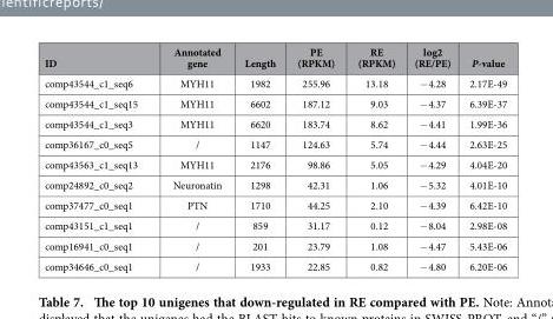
<table><thead><tr><td>ID</td><td>Annotated gene</td><td>Length</td><td>PE (RPKM)</td><td>RE (RPKM)</td><td>log2 (RE/PE)</td><td>P-value</td></tr></thead><tbody><tr><td>comp43544_c1_seq6</td><td>MYH11</td><td>1982</td><td>255.96</td><td>13.18</td><td>− 4.28</td><td>2.17E-49</td></tr><tr><td>comp43544_c1_seq15</td><td>MYH11</td><td>6602</td><td>187.12</td><td>9.03</td><td>− 4.37</td><td>6.39E-37</td></tr><tr><td>comp43544_c1_seq3</td><td>MYH11</td><td>6620</td><td>183.74</td><td>8.62</td><td>− 4.41</td><td>1.99E-36</td></tr><tr><td>comp36167_c0_seq5</td><td>/</td><td>1147</td><td>124.63</td><td>5.74</td><td>− 4.44</td><td>2.63E-25</td></tr><tr><td>comp43563_c1_seq13</td><td>MYH11</td><td>2176</td><td>98.86</td><td>5.05</td><td>− 4.29</td><td>4.04E-20</td></tr><tr><td>comp24892_c0_seq2</td><td>Neuronatin</td><td>1298</td><td>42.31</td><td>1.06</td><td>− 5.32</td><td>4.01E-10</td></tr><tr><td>comp37477_c0_seq1</td><td>PTN</td><td>1710</td><td>44.25</td><td>2.10</td><td>− 4.39</td><td>6.42E-10</td></tr><tr><td>comp43151_c1_seq1</td><td>/</td><td>859</td><td>31.17</td><td>0.12</td><td>− 8.04</td><td>2.98E-08</td></tr><tr><td>comp16941_c0_seq1</td><td>/</td><td>201</td><td>23.79</td><td>1.08</td><td>− 4.47</td><td>5.43E-06</td></tr><tr><td>comp34646_c0_seq1</td><td>/</td><td>1933</td><td>22.85</td><td>0.82</td><td>− 4.80</td><td>6.20E-06</td></tr></tbody></table>